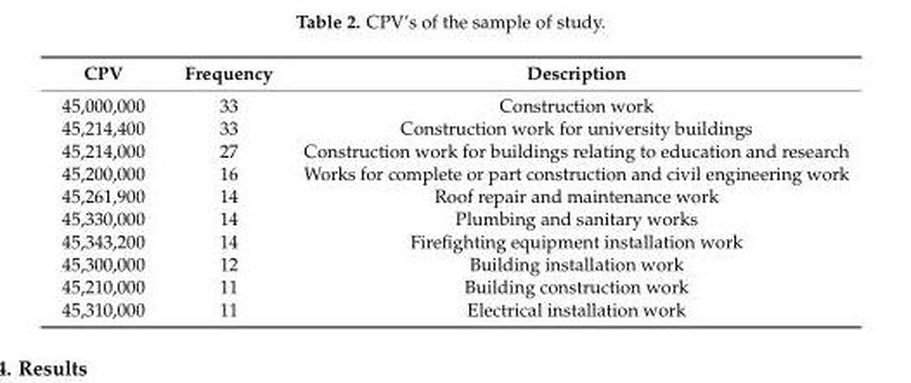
<table><thead><tr><td>CPV</td><td>Frequency</td><td>Description</td></tr></thead><tbody><tr><td>45,000,000</td><td>33</td><td>Construction work</td></tr><tr><td>45,214,400</td><td>33</td><td>Construction work for university buildings</td></tr><tr><td>45,214,000</td><td>27</td><td>Construction work for buildings relating to education and research</td></tr><tr><td>45,200,000</td><td>16</td><td>Works for complete or part construction and civil engineering work</td></tr><tr><td>45,261,900</td><td>14</td><td>Roof repair and maintenance work</td></tr><tr><td>45,330,000</td><td>14</td><td>Plumbing and sanitary works</td></tr><tr><td>45,343,200</td><td>14</td><td>Firefighting equipment installation work</td></tr><tr><td>45,300,000</td><td>12</td><td>Building installation work</td></tr><tr><td>45,210,000</td><td>11</td><td>Building construction work</td></tr><tr><td>45,310,000</td><td>11</td><td>Electrical installation work</td></tr></tbody></table>